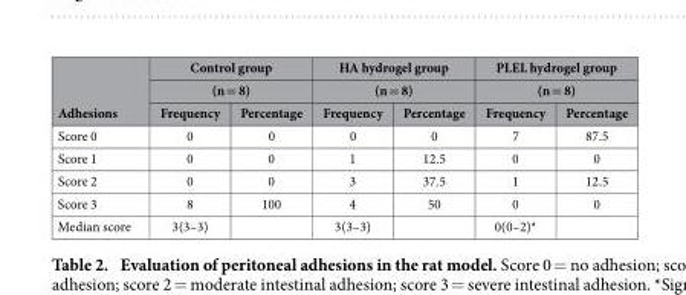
<table><thead><tr><td rowspan="3">Adhesions</td><td rowspan="2" colspan="2">Control group (n = 8)</td><td rowspan="2" colspan="2">HA hydrogel group (n = 8)</td><td rowspan="2" colspan="2">PLEL hydrogel group (n = 8)</td></tr><tr></tr><tr><td>Frequency</td><td>Percentage</td><td>Frequency</td><td>Percentage</td><td>Frequency</td><td>Percentage</td></tr></thead><tbody><tr><td>Score 0</td><td>0</td><td>0</td><td>0</td><td>0</td><td>7</td><td>87.5</td></tr><tr><td>Score 1</td><td>0</td><td>0</td><td>1</td><td>12.5</td><td>0</td><td>0</td></tr><tr><td>Score 2</td><td>0</td><td>0</td><td>3</td><td>37.5</td><td>1</td><td>12.5</td></tr><tr><td>Score 3</td><td>8</td><td>100</td><td>4</td><td>50</td><td>0</td><td>0</td></tr><tr><td>Median score</td><td>3(3–3)</td><td></td><td>3(3–3)</td><td></td><td>0(0–2)*</td><td></td></tr></tbody></table>